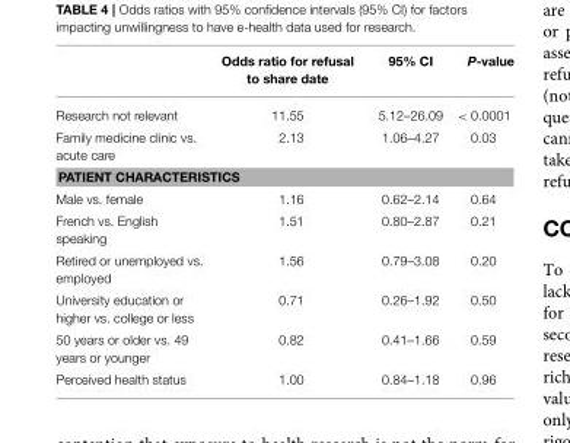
<table><thead><tr><td></td><td>Odds ratio for refusal to share date</td><td>95% CI</td><td>P-value</td></tr></thead><tbody><tr><td>Research not relevant</td><td>11.55</td><td>5.12–26.09</td><td>&lt; 0.0001</td></tr><tr><td>Family medicine clinic vs. acute care</td><td>2.13</td><td>1.06–4.27</td><td>0.03</td></tr><tr><td colspan="4">PATIENT CHARACTERISTICS</td></tr><tr><td>Male vs. female</td><td>1.16</td><td>0.62–2.14</td><td>0.64</td></tr><tr><td>French vs. English speaking</td><td>1.51</td><td>0.80–2.87</td><td>0.21</td></tr><tr><td>Retired or unemployed vs. employed</td><td>1.56</td><td>0.79–3.08</td><td>0.20</td></tr><tr><td>University education or higher vs. college or less</td><td>0.71</td><td>0.26–1.92</td><td>0.50</td></tr><tr><td>50 years or older vs. 49 years or younger</td><td>0.82</td><td>0.41–1.66</td><td>0.59</td></tr><tr><td>Perceived health status</td><td>1.00</td><td>0.84–1.18</td><td>0.96</td></tr></tbody></table>